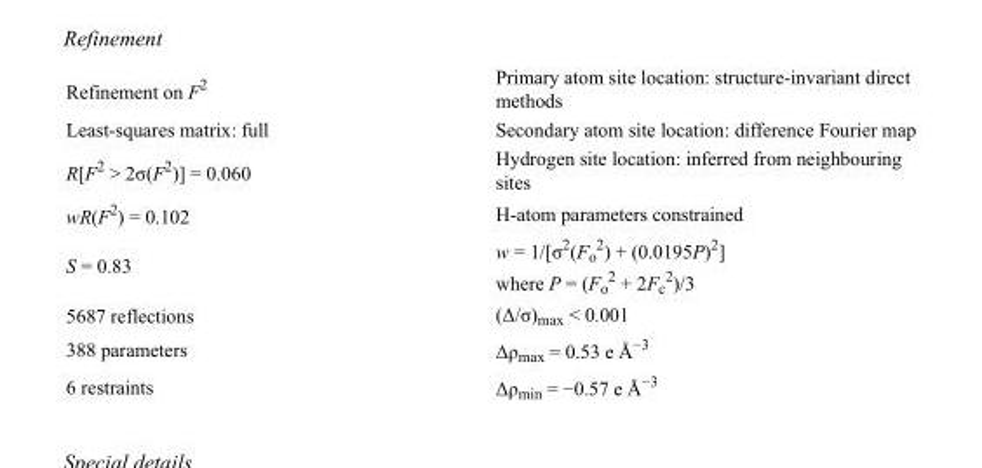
<table><tbody><tr><td>Refinement on F<sup>2</sup></td><td>Primary atom site location: structure-invariant direct methods</td></tr><tr><td>Least-squares matrix: full</td><td>Secondary atom site location: difference Fourier map</td></tr><tr><td>R[F<sup>2</sup> &gt; 2σ(F<sup>2</sup>)] = 0.060</td><td>Hydrogen site location: inferred from neighbouring sites</td></tr><tr><td>wR(F<sup>2</sup>) = 0.102</td><td>H-atom parameters constrained</td></tr><tr><td>S = 0.83</td><td>w = 1/[σ<sup>2</sup>(F<sub>o</sub> <sup>2</sup>) + (0.0195P)<sup>2</sup>] where P = (F<sub>o</sub> <sup>2</sup> + 2F<sub>c</sub> <sup>2</sup>)/3</td></tr><tr><td>5687 reflections</td><td>(Δ/σ)<sub>max</sub> &lt; 0.001</td></tr><tr><td>388 parameters</td><td>Δρ<sub>max</sub> = 0.53 e Å<sup>−3</sup></td></tr><tr><td>6 restraints</td><td>Δρ<sub>min</sub> = −0.57 e Å<sup>−3</sup></td></tr></tbody></table>